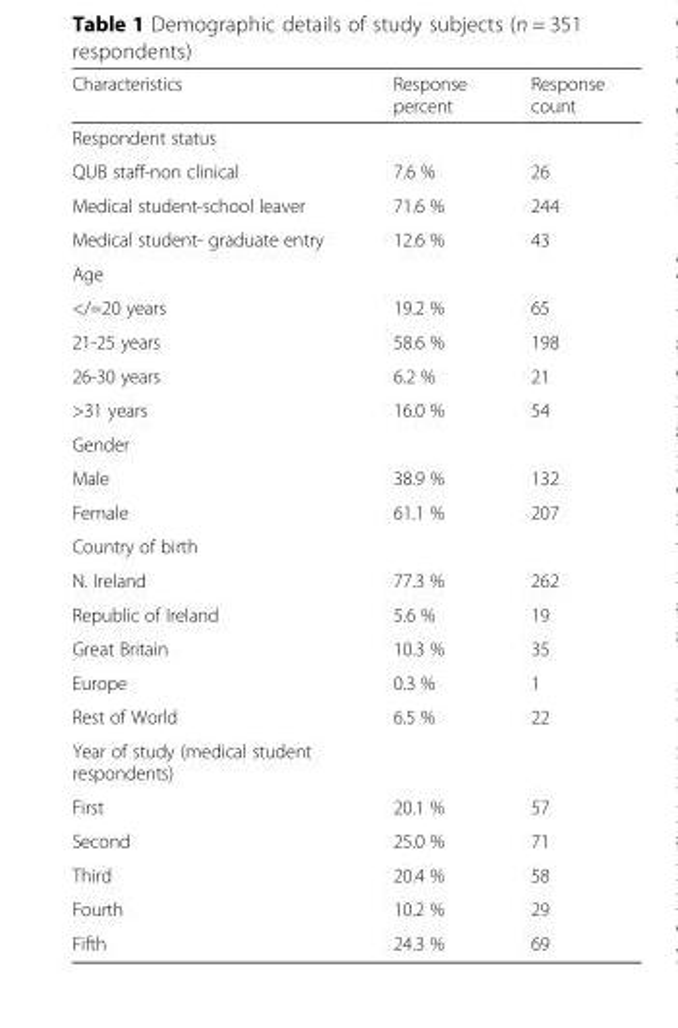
<table><thead><tr><td>Characteristics</td><td>Response percent</td><td>Response count</td></tr></thead><tbody><tr><td colspan="3">Respondent status</td></tr><tr><td>QUB staff-non clinical</td><td>7.6 %</td><td>26</td></tr><tr><td>Medical student-school leaver</td><td>71.6 %</td><td>244</td></tr><tr><td>Medical student- graduate entry</td><td>12.6 %</td><td>43</td></tr><tr><td colspan="3">Age</td></tr><tr><td>&lt;/=20 years</td><td>19.2 %</td><td>65</td></tr><tr><td>21-25 years</td><td>58.6 %</td><td>198</td></tr><tr><td>26-30 years</td><td>6.2 %</td><td>21</td></tr><tr><td>&gt;31 years</td><td>16.0 %</td><td>54</td></tr><tr><td colspan="3">Gender</td></tr><tr><td>Male</td><td>38.9 %</td><td>132</td></tr><tr><td>Female</td><td>61.1 %</td><td>207</td></tr><tr><td colspan="3">Country of birth</td></tr><tr><td>N. Ireland</td><td>77.3 %</td><td>262</td></tr><tr><td>Republic of Ireland</td><td>5.6 %</td><td>19</td></tr><tr><td>Great Britain</td><td>10.3 %</td><td>35</td></tr><tr><td>Europe</td><td>0.3 %</td><td>1</td></tr><tr><td>Rest of World</td><td>6.5 %</td><td>22</td></tr><tr><td colspan="3">Year of study (medical student respondents)</td></tr><tr><td>First</td><td>20.1 %</td><td>57</td></tr><tr><td>Second</td><td>25.0 %</td><td>71</td></tr><tr><td>Third</td><td>20.4 %</td><td>58</td></tr><tr><td>Fourth</td><td>10.2 %</td><td>29</td></tr><tr><td>Fifth</td><td>24.3 %</td><td>69</td></tr></tbody></table>